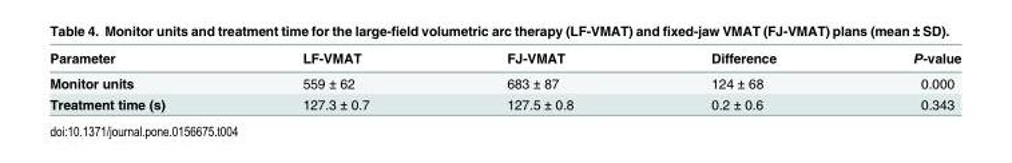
<table><thead><tr><td>Parameter</td><td>LF-VMAT</td><td>FJ-VMAT</td><td>Difference</td><td>P-value</td></tr></thead><tbody><tr><td>Monitor units</td><td>559 ± 62</td><td>683 ± 87</td><td>124 ± 68</td><td>0.000</td></tr><tr><td>Treatment time (s)</td><td>127.3 ± 0.7</td><td>127.5 ± 0.8</td><td>0.2 ± 0.6</td><td>0.343</td></tr></tbody></table>